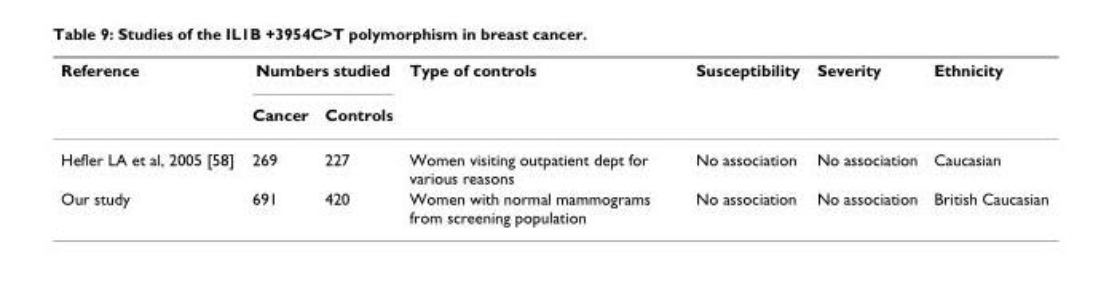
<table><thead><tr><td rowspan="2">Reference</td><td colspan="2">Numbers studied</td><td rowspan="2">Type of controls</td><td rowspan="2">Susceptibility</td><td rowspan="2">Severity</td><td rowspan="2">Ethnicity</td></tr><tr><td>Cancer</td><td>Controls</td></tr></thead><tbody><tr><td>Hefler LA et al, 2005 [58]</td><td>269</td><td>227</td><td>Women visiting outpatient dept for various reasons</td><td>No association</td><td>No association</td><td>Caucasian</td></tr><tr><td>Our study</td><td>691</td><td>420</td><td>Women with normal mammograms from screening population</td><td>No association</td><td>No association</td><td>British Caucasian</td></tr></tbody></table>